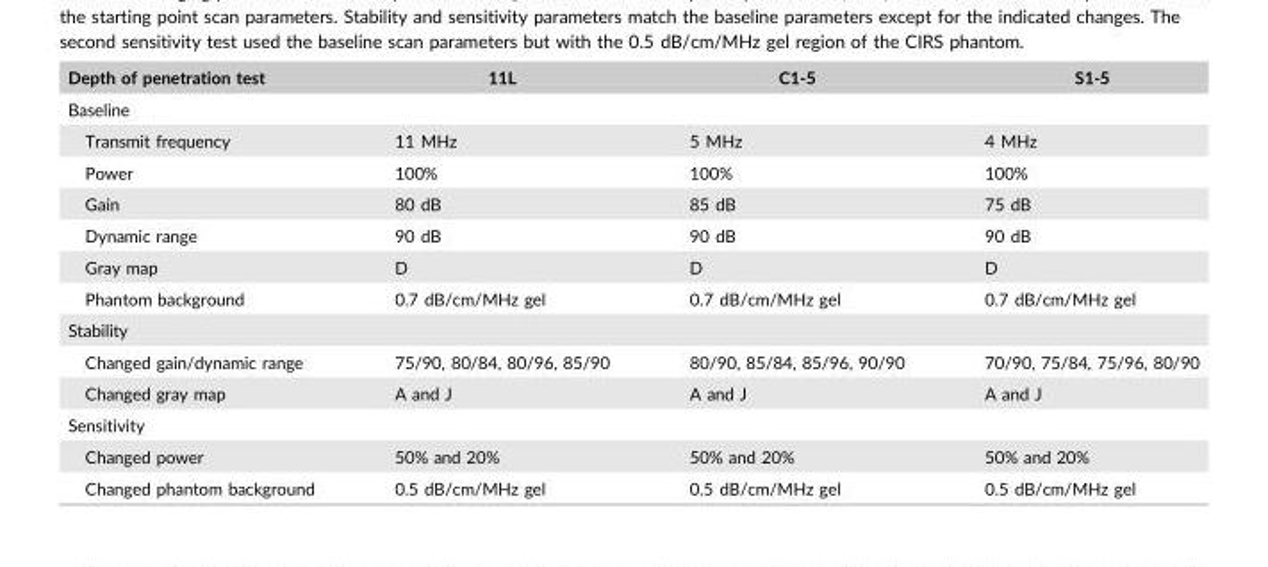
<table><thead><tr><td>Depth of penetration test</td><td>11L</td><td>C1-5</td><td>S1-5</td></tr></thead><tbody><tr><td colspan="4">Baseline</td></tr><tr><td>Transmit frequency</td><td>11 MHz</td><td>5 MHz</td><td>4 MHz</td></tr><tr><td>Power</td><td>100%</td><td>100%</td><td>100%</td></tr><tr><td>Gain</td><td>80 dB</td><td>85 dB</td><td>75 dB</td></tr><tr><td>Dynamic range</td><td>90 dB</td><td>90 dB</td><td>90 dB</td></tr><tr><td>Gray map</td><td>D</td><td>D</td><td>D</td></tr><tr><td>Phantom background</td><td>0.7 dB/cm/MHz gel</td><td>0.7 dB/cm/MHz gel</td><td>0.7 dB/cm/MHz gel</td></tr><tr><td colspan="4">Stability</td></tr><tr><td>Changed gain/dynamic range</td><td>75/90, 80/84, 80/96, 85/90</td><td>80/90, 85/84, 85/96, 90/90</td><td>70/90, 75/84, 75/96, 80/90</td></tr><tr><td>Changed gray map</td><td>A and J</td><td>A and J</td><td>A and J</td></tr><tr><td colspan="4">Sensitivity</td></tr><tr><td>Changed power</td><td>50% and 20%</td><td>50% and 20%</td><td>50% and 20%</td></tr><tr><td>Changed phantom background</td><td>0.5 dB/cm/MHz gel</td><td>0.5 dB/cm/MHz gel</td><td>0.5 dB/cm/MHz gel</td></tr></tbody></table>